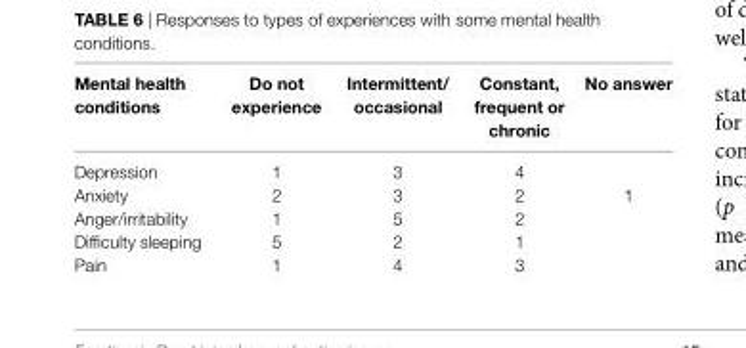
<table><thead><tr><td>Mental health conditions</td><td>Do not experience</td><td>intermittent/ occasional</td><td>constant, frequent or chronic</td><td>no answer</td></tr></thead><tbody><tr><td>Depression</td><td>1</td><td>3</td><td>4</td><td></td></tr><tr><td>Anxiety</td><td>2</td><td>3</td><td>2</td><td>1</td></tr><tr><td>Anger/irritability</td><td>1</td><td>5</td><td>2</td><td></td></tr><tr><td>Difficulty sleeping</td><td>5</td><td>2</td><td>1</td><td></td></tr><tr><td>Pain</td><td>1</td><td>4</td><td>3</td><td></td></tr></tbody></table>